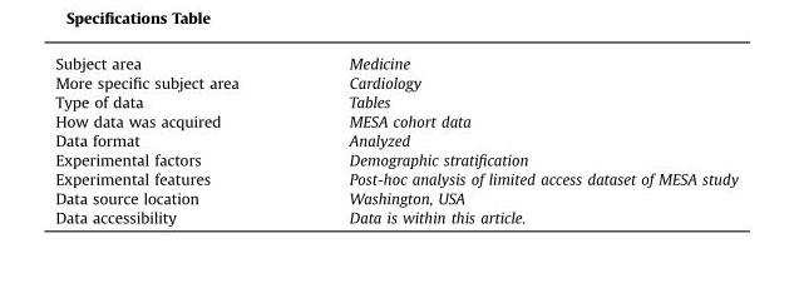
<table><tbody><tr><td>Subject area</td><td>Medicine</td></tr><tr><td>More specific subject area</td><td>Cardiology</td></tr><tr><td>Type of data</td><td>Tables</td></tr><tr><td>How data was acquired</td><td>MESA cohort data</td></tr><tr><td>Data format</td><td>Analyzed</td></tr><tr><td>Experimental factors</td><td>Demographic stratification</td></tr><tr><td>Experimental features</td><td>Post-hoc analysis of limited access dataset of MESA study</td></tr><tr><td>Data source location</td><td>Washington, USA</td></tr><tr><td>Data accessibility</td><td>Data is within this article.</td></tr></tbody></table>